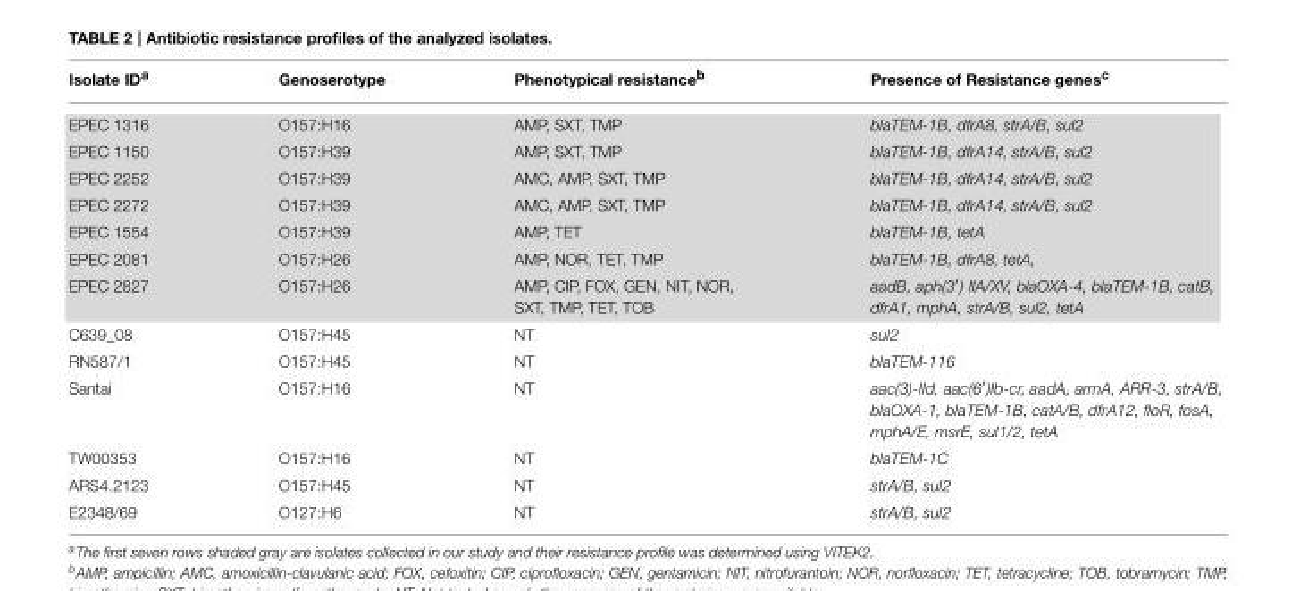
<table><thead><tr><td>Isolate ID<sup>a</sup></td><td>Genoserotype</td><td>Phenotypical resistance<sup>b</sup></td><td>Presence of Resistance genes<sup>c</sup></td></tr></thead><tbody><tr><td>EPEC 1316</td><td>O157:H16</td><td>AMP, SXT, TMP</td><td>blaTEM-1B, dfrA8, strA/B, sul2</td></tr><tr><td>EPEC 1150</td><td>O157:H39</td><td>AMP, SXT, TMP</td><td>blaTEM-1B, dfrA14, strA/B, sul2</td></tr><tr><td>EPEC 2252</td><td>O157:H39</td><td>AMC, AMP, SXT, TMP</td><td>blaTEM-1B, dfrA14, strA/B, sul2</td></tr><tr><td>EPEC 2272</td><td>O157:H39</td><td>AMC, AMP, SXT, TMP</td><td>blaTEM-1B, dfrA14, strA/B, sul2</td></tr><tr><td>EPEC 1554</td><td>O157:H39</td><td>AMP, TET</td><td>blaTEM-1B, tetA</td></tr><tr><td>EPEC 2081</td><td>O157:H26</td><td>AMP, NOR, TET, TMP</td><td>blaTEM-1B, dfrA8, tetA,</td></tr><tr><td>EPEC 2827</td><td>O157:H26</td><td>AMP, CIP, FOX, GEN, NIT, NOR, SXT, TMP, TET, TOB</td><td>aadB, aph(3′) IIA/XV, blaOXA-4, blaTEM-1B, catB, dfrA1, mphA, strA/B, sul2, tetA</td></tr><tr><td>C639_08</td><td>O157:H45</td><td>NT</td><td>sul2</td></tr><tr><td>RN587/1</td><td>O157:H45</td><td>NT</td><td>blaTEM-116</td></tr><tr><td>Santai</td><td>O157:H16</td><td>NT</td><td>aac(3)-IId, aac(6′)Ib-cr, aadA, armA, ARR-3, strA/B, blaOXA-1, blaTEM-1B, catA/B, dfrA12, floR, fosA, mphA/E, msrE, sul1/2, tetA</td></tr><tr><td>TW00353</td><td>O157:H16</td><td>NT</td><td>blaTEM-1C</td></tr><tr><td>ARS4.2123</td><td>O157:H45</td><td>NT</td><td>strA/B, sul2</td></tr><tr><td>E2348/69</td><td>O127:H6</td><td>NT</td><td>strA/B, sul2</td></tr></tbody></table>